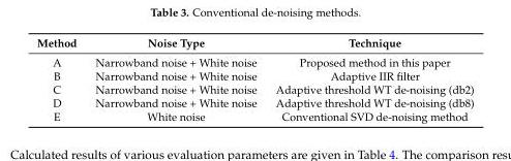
<table><thead><tr><td>Method</td><td>Noise Type</td><td>Technique</td></tr></thead><tbody><tr><td>A</td><td>Narrowband noise + White noise</td><td>Proposed method in this paper</td></tr><tr><td>B</td><td>Narrowband noise + White noise</td><td>Adaptive IIR filter</td></tr><tr><td>C</td><td>Narrowband noise + White noise</td><td>Adaptive threshold WT de-noising (db2)</td></tr><tr><td>D</td><td>Narrowband noise + White noise</td><td>Adaptive threshold WT de-noising (db8)</td></tr><tr><td>E</td><td>White noise</td><td>Conventional SVD de-noising method</td></tr></tbody></table>